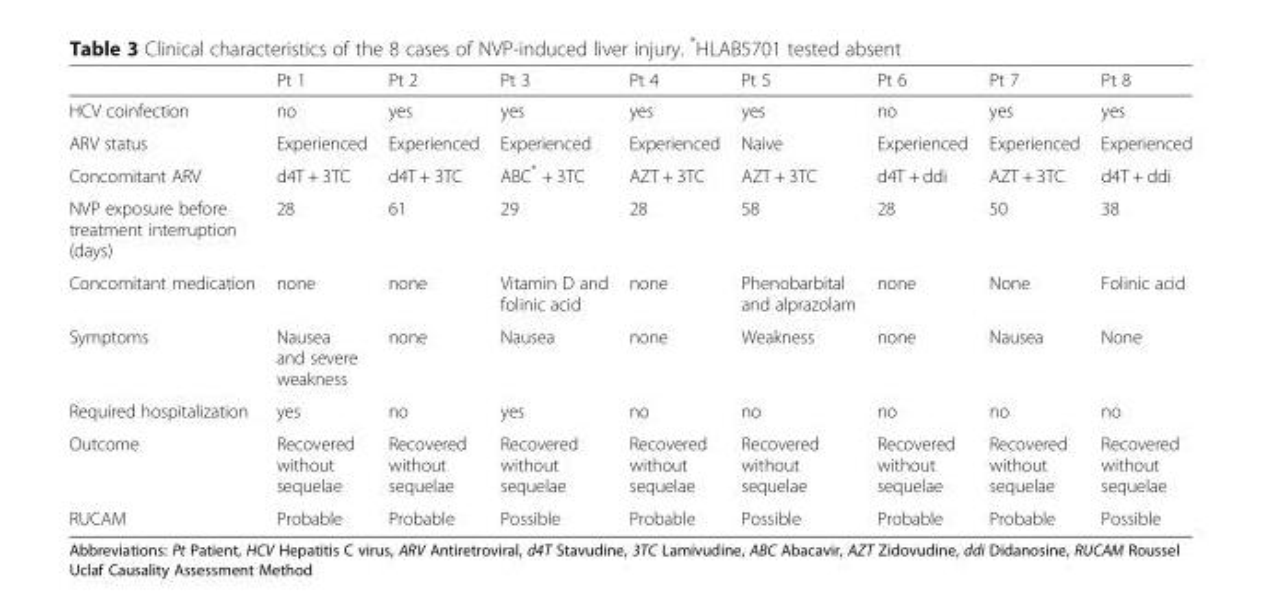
<table><thead><tr><td></td><td>Pt 1</td><td>Pt 2</td><td>Pt 3</td><td>Pt 4</td><td>Pt 5</td><td>Pt 6</td><td>Pt 7</td><td>Pt 8</td></tr></thead><tbody><tr><td>HCV coinfection</td><td>no</td><td>yes</td><td>yes</td><td>yes</td><td>yes</td><td>no</td><td>yes</td><td>yes</td></tr><tr><td>ARV status</td><td>Experienced</td><td>Experienced</td><td>Experienced</td><td>Experienced</td><td>Naive</td><td>Experienced</td><td>Experienced</td><td>Experienced</td></tr><tr><td>Concomitant ARV</td><td>d4T + 3TC</td><td>d4T + 3TC</td><td>ABC* + 3TC</td><td>AZT + 3TC</td><td>AZT + 3TC</td><td>d4T + ddi</td><td>AZT + 3TC</td><td>d4T + ddi</td></tr><tr><td>NVP exposure before treatment interruption (days)</td><td>28</td><td>61</td><td>29</td><td>28</td><td>58</td><td>28</td><td>50</td><td>38</td></tr><tr><td>Concomitant medication</td><td>none</td><td>none</td><td>Vitamin D and folinic acid</td><td>none</td><td>Phenobarbital and alprazolam</td><td>none</td><td>None</td><td>Folinic acid</td></tr><tr><td>Symptoms</td><td>Nausea and severe weakness</td><td>none</td><td>Nausea</td><td>none</td><td>Weakness</td><td>none</td><td>Nausea</td><td>None</td></tr><tr><td>Required hospitalization</td><td>yes</td><td>no</td><td>yes</td><td>no</td><td>no</td><td>no</td><td>no</td><td>no</td></tr><tr><td>Outcome</td><td>Recovered without sequelae</td><td>Recovered without sequelae</td><td>Recovered without sequelae</td><td>Recovered without sequelae</td><td>Recovered without sequelae</td><td>Recovered without sequelae</td><td>Recovered without sequelae</td><td>Recovered without sequelae</td></tr><tr><td>RUCAM</td><td>Probable</td><td>Probable</td><td>Possible</td><td>Probable</td><td>Possible</td><td>Probable</td><td>Probable</td><td>Possible</td></tr></tbody></table>